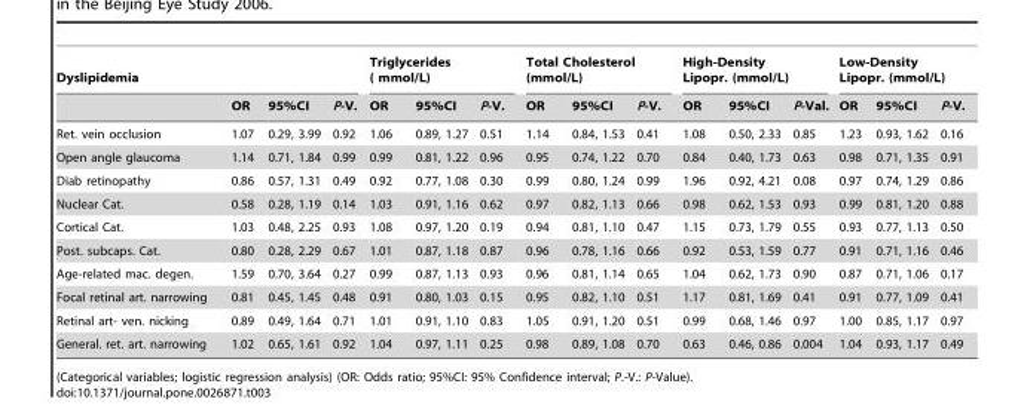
<table><thead><tr><td colspan="4">Dyslipidemia</td><td colspan="3">Triglycerides ( mmol/L)</td><td colspan="3">Total Cholesterol (mmol/L)</td><td colspan="3">High-Density Lipopr. (mmol/L)</td><td colspan="3">Low-Density Lipopr. (mmol/L)</td></tr><tr><td></td><td>OR</td><td>95%CI</td><td>P-V.</td><td>OR</td><td>95%CI</td><td>P-V.</td><td>OR</td><td>95%CI</td><td>P-V.</td><td>OR</td><td>95%CI</td><td>P-Val.</td><td>OR</td><td>95%CI</td><td>P-V.</td></tr></thead><tbody><tr><td>Ret. vein occlusion</td><td>1.07</td><td>0.29, 3.99</td><td>0.92</td><td>1.06</td><td>0.89, 1.27</td><td>0.51</td><td>1.14</td><td>0.84, 1.53</td><td>0.41</td><td>1.08</td><td>0.50, 2.33</td><td>0.85</td><td>1.23</td><td>0.93, 1.62</td><td>0.16</td></tr><tr><td>Open angle glaucoma</td><td>1.14</td><td>0.71, 1.84</td><td>0.99</td><td>0.99</td><td>0.81, 1.22</td><td>0.96</td><td>0.95</td><td>0.74, 1.22</td><td>0.70</td><td>0.84</td><td>0.40, 1.73</td><td>0.63</td><td>0.98</td><td>0.71, 1.35</td><td>0.91</td></tr><tr><td>Diab retinopathy</td><td>0.86</td><td>0.57, 1.31</td><td>0.49</td><td>0.92</td><td>0.77, 1.08</td><td>0.30</td><td>0.99</td><td>0.80, 1.24</td><td>0.99</td><td>1.96</td><td>0.92, 4.21</td><td>0.08</td><td>0.97</td><td>0.74, 1.29</td><td>0.86</td></tr><tr><td>Nuclear Cat.</td><td>0.58</td><td>0.28, 1.19</td><td>0.14</td><td>1.03</td><td>0.91, 1.16</td><td>0.62</td><td>0.97</td><td>0.82, 1.13</td><td>0.66</td><td>0.98</td><td>0.62, 1.53</td><td>0.93</td><td>0.99</td><td>0.81, 1.20</td><td>0.88</td></tr><tr><td>Cortical Cat.</td><td>1.03</td><td>0.48, 2.25</td><td>0.93</td><td>1.08</td><td>0.97, 1.20</td><td>0.19</td><td>0.94</td><td>0.81, 1.10</td><td>0.47</td><td>1.15</td><td>0.73, 1.79</td><td>0.55</td><td>0.93</td><td>0.77, 1.13</td><td>0.50</td></tr><tr><td>Post. subcaps. Cat.</td><td>0.80</td><td>0.28, 2.29</td><td>0.67</td><td>1.01</td><td>0.87, 1.18</td><td>0.87</td><td>0.96</td><td>0.78, 1.16</td><td>0.66</td><td>0.92</td><td>0.53, 1.59</td><td>0.77</td><td>0.91</td><td>0.71, 1.16</td><td>0.46</td></tr><tr><td>Age-related mac. degen.</td><td>1.59</td><td>0.70, 3.64</td><td>0.27</td><td>0.99</td><td>0.87, 1.13</td><td>0.93</td><td>0.96</td><td>0.81, 1.14</td><td>0.65</td><td>1.04</td><td>0.62, 1.73</td><td>0.90</td><td>0.87</td><td>0.71, 1.06</td><td>0.17</td></tr><tr><td>Focal retinal art. narrowing</td><td>0.81</td><td>0.45, 1.45</td><td>0.48</td><td>0.91</td><td>0.80, 1.03</td><td>0.15</td><td>0.95</td><td>0.82, 1.10</td><td>0.51</td><td>1.17</td><td>0.81, 1.69</td><td>0.41</td><td>0.91</td><td>0.77, 1.09</td><td>0.41</td></tr><tr><td>Retinal art- ven. nicking</td><td>0.89</td><td>0.49, 1.64</td><td>0.71</td><td>1.01</td><td>0.91, 1.10</td><td>0.83</td><td>1.05</td><td>0.91, 1.20</td><td>0.51</td><td>0.99</td><td>0.68, 1.46</td><td>0.97</td><td>1.00</td><td>0.85, 1.17</td><td>0.97</td></tr><tr><td>General. ret. art. narrowing</td><td>1.02</td><td>0.65, 1.61</td><td>0.92</td><td>1.04</td><td>0.97, 1.11</td><td>0.25</td><td>0.98</td><td>0.89, 1.08</td><td>0.70</td><td>0.63</td><td>0.46, 0.86</td><td>0.004</td><td>1.04</td><td>0.93, 1.17</td><td>0.49</td></tr></tbody></table>